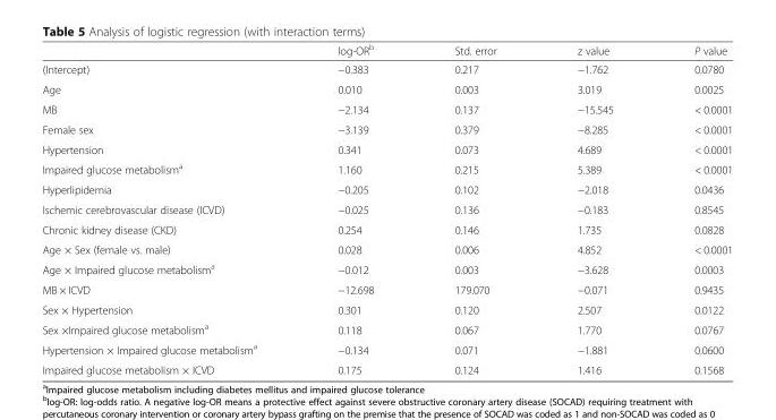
<table><thead><tr><td></td><td>log-OR<sup>b</sup></td><td>Std. error</td><td>z value</td><td>P value</td></tr></thead><tbody><tr><td>(Intercept)</td><td>−0.383</td><td>0.217</td><td>−1.762</td><td>0.0780</td></tr><tr><td>Age</td><td>0.010</td><td>0.003</td><td>3.019</td><td>0.0025</td></tr><tr><td>MB</td><td>−2.134</td><td>0.137</td><td>−15.545</td><td>&lt; 0.0001</td></tr><tr><td>Female sex</td><td>−3.139</td><td>0.379</td><td>−8.285</td><td>&lt; 0.0001</td></tr><tr><td>Hypertension</td><td>0.341</td><td>0.073</td><td>4.689</td><td>&lt; 0.0001</td></tr><tr><td>Impaired glucose metabolism<sup>a</sup></td><td>1.160</td><td>0.215</td><td>5.389</td><td>&lt; 0.0001</td></tr><tr><td>Hyperlipidemia</td><td>−0.205</td><td>0.102</td><td>−2.018</td><td>0.0436</td></tr><tr><td>Ischemic cerebrovascular disease (ICVD)</td><td>−0.025</td><td>0.136</td><td>−0.183</td><td>0.8545</td></tr><tr><td>Chronic kidney disease (CKD)</td><td>0.254</td><td>0.146</td><td>1.735</td><td>0.0828</td></tr><tr><td>Age × Sex (female vs. male)</td><td>0.028</td><td>0.006</td><td>4.852</td><td>&lt; 0.0001</td></tr><tr><td>Age × Impaired glucose metabolism<sup>a</sup></td><td>−0.012</td><td>0.003</td><td>−3.628</td><td>0.0003</td></tr><tr><td>MB × ICVD</td><td>−12.698</td><td>179.070</td><td>−0.071</td><td>0.9435</td></tr><tr><td>Sex × Hypertension</td><td>0.301</td><td>0.120</td><td>2.507</td><td>0.0122</td></tr><tr><td>Sex ×Impaired glucose metabolism<sup>a</sup></td><td>0.118</td><td>0.067</td><td>1.770</td><td>0.0767</td></tr><tr><td>Hypertension × Impaired glucose metabolism<sup>a</sup></td><td>−0.134</td><td>0.071</td><td>−1.881</td><td>0.0600</td></tr><tr><td>Impaired glucose metabolism × ICVD</td><td>0.175</td><td>0.124</td><td>1.416</td><td>0.1568</td></tr></tbody></table>